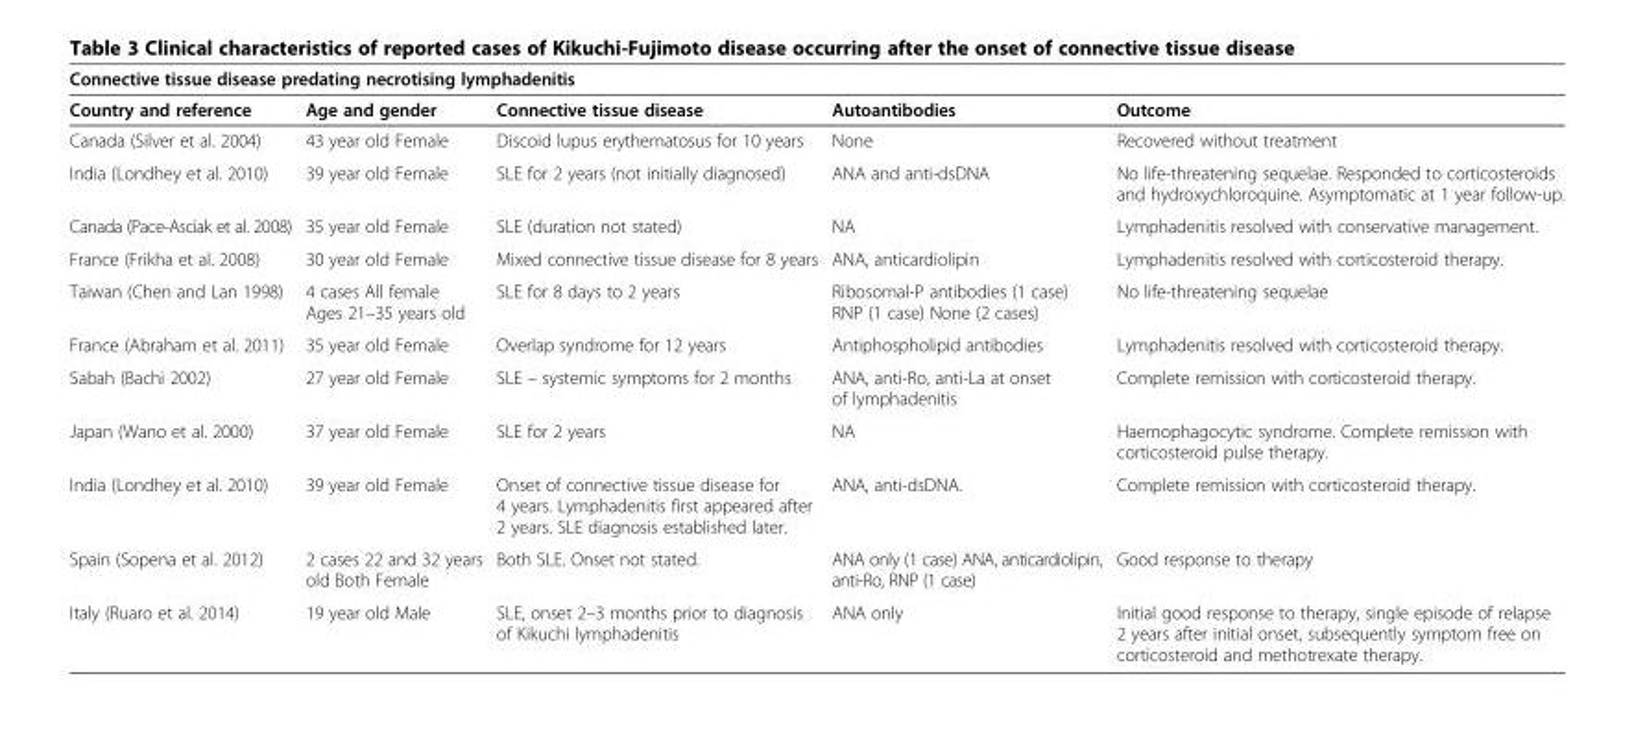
<table><thead><tr><td colspan="5">Connective tissue disease predating necrotising lymphadenitis</td></tr><tr><td>Country and reference</td><td>Age and gender</td><td>Connective tissue disease</td><td>Autoantibodies</td><td>Outcome</td></tr></thead><tbody><tr><td>Canada (Silver et al. 2004)</td><td>43 year old Female</td><td>Discoid lupus erythematosus for 10 years</td><td>None</td><td>Recovered without treatment</td></tr><tr><td>India (Londhey et al. 2010)</td><td>39 year old Female</td><td>SLE for 2 years (not initially diagnosed)</td><td>ANA and anti-dsDNA</td><td>No life-threatening sequelae. Responded to corticosteroids and hydroxychloroquine. Asymptomatic at 1 year follow-up.</td></tr><tr><td>Canada (Pace-Asciak et al. 2008)</td><td>35 year old Female</td><td>SLE (duration not stated)</td><td>NA</td><td>Lymphadenitis resolved with conservative management.</td></tr><tr><td>France (Frikha et al. 2008)</td><td>30 year old Female</td><td>Mixed connective tissue disease for 8 years</td><td>ANA, anticardiolipin</td><td>Lymphadenitis resolved with corticosteroid therapy.</td></tr><tr><td>Taiwan (Chen and Lan 1998)</td><td>4 cases All female Ages 21–35 years old</td><td>SLE for 8 days to 2 years</td><td>Ribosomal-P antibodies (1 case) RNP (1 case) None (2 cases)</td><td>No life-threatening sequelae</td></tr><tr><td>France (Abraham et al. 2011)</td><td>35 year old Female</td><td>Overlap syndrome for 12 years</td><td>Antiphospholipid antibodies</td><td>Lymphadenitis resolved with corticosteroid therapy.</td></tr><tr><td>Sabah (Bachi 2002)</td><td>27 year old Female</td><td>SLE – systemic symptoms for 2 months</td><td>ANA, anti-Ro, anti-La at onset of lymphadenitis</td><td>Complete remission with corticosteroid therapy.</td></tr><tr><td>Japan (Wano et al. 2000)</td><td>37 year old Female</td><td>SLE for 2 years</td><td>NA</td><td>Haemophagocytic syndrome. Complete remission with corticosteroid pulse therapy.</td></tr><tr><td>India (Londhey et al. 2010)</td><td>39 year old Female</td><td>Onset of connective tissue disease for 4 years. Lymphadenitis first appeared after 2 years. SLE diagnosis established later.</td><td>ANA, anti-dsDNA.</td><td>Complete remission with corticosteroid therapy.</td></tr><tr><td>Spain (Sopena et al. 2012)</td><td>2 cases 22 and 32 years old Both Female</td><td>Both SLE. Onset not stated.</td><td>ANA only (1 case) ANA, anticardiolipin, anti-Ro, RNP (1 case)</td><td>Good response to therapy</td></tr><tr><td>Italy (Ruaro et al. 2014)</td><td>19 year old Male</td><td>SLE, onset 2–3 months prior to diagnosis of Kikuchi lymphadenitis</td><td>ANA only</td><td>Initial good response to therapy, single episode of relapse 2 years after initial onset, subsequently symptom free on corticosteroid and methotrexate therapy.</td></tr></tbody></table>